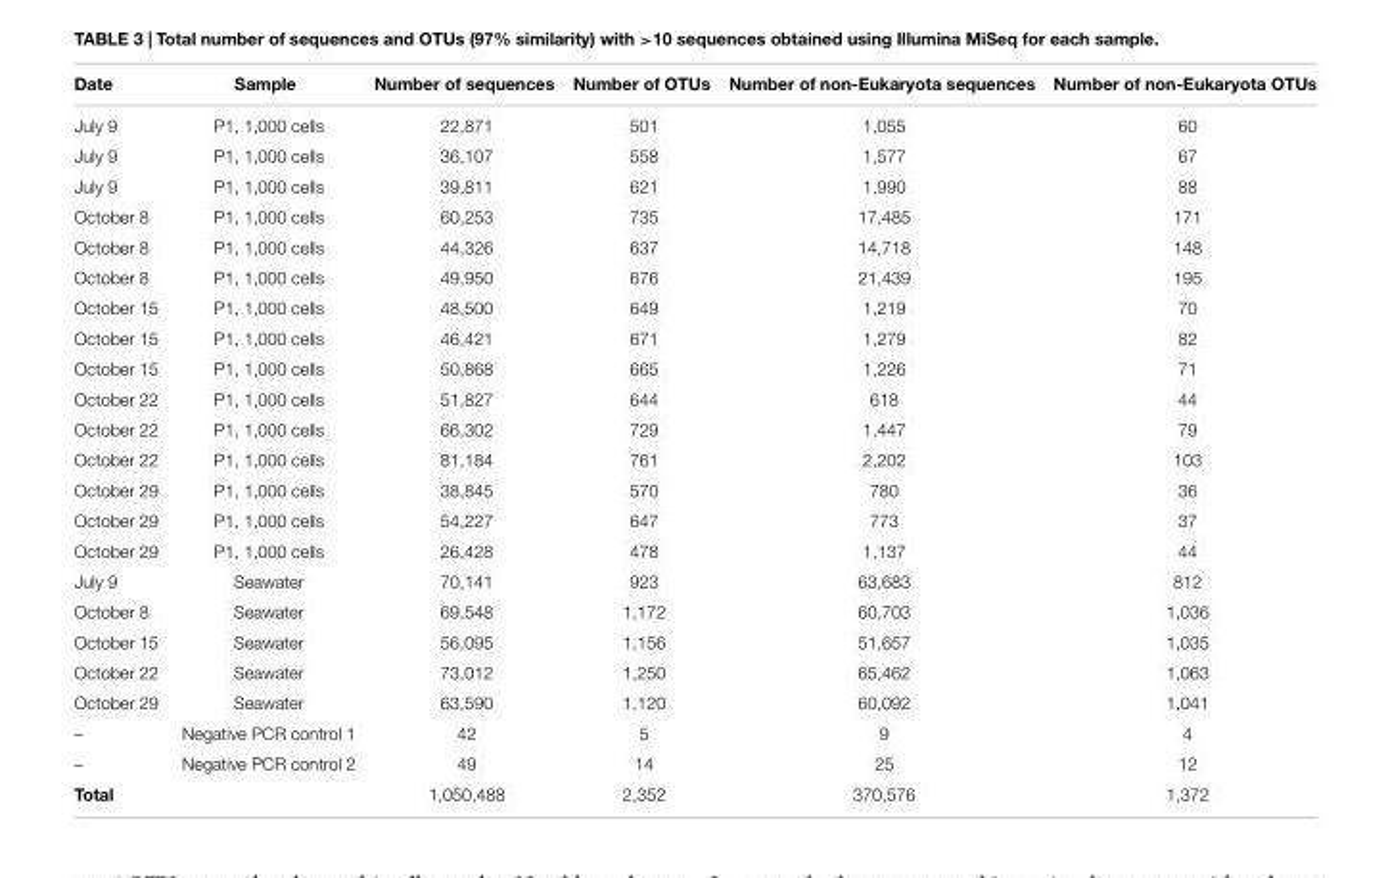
<table><thead><tr><td>Date</td><td>Sample</td><td>Number of sequences</td><td>Number of OTUs</td><td>Number of non-Eukaryota sequences</td><td>Number of non-Eukaryota OTUs</td></tr></thead><tbody><tr><td>July 9</td><td>P1, 1,000 cells</td><td>22,871</td><td>501</td><td>1,055</td><td>60</td></tr><tr><td>July 9</td><td>P1, 1,000 cells</td><td>36,107</td><td>558</td><td>1,577</td><td>67</td></tr><tr><td>July 9</td><td>P1, 1,000 cells</td><td>39,811</td><td>621</td><td>1,990</td><td>88</td></tr><tr><td>October 8</td><td>P1, 1,000 cells</td><td>60,253</td><td>735</td><td>17,485</td><td>171</td></tr><tr><td>October 8</td><td>P1, 1,000 cells</td><td>44,326</td><td>637</td><td>14,718</td><td>148</td></tr><tr><td>October 8</td><td>P1, 1,000 cells</td><td>49,950</td><td>676</td><td>21,439</td><td>195</td></tr><tr><td>October 15</td><td>P1, 1,000 cells</td><td>48,500</td><td>649</td><td>1,219</td><td>70</td></tr><tr><td>October 15</td><td>P1, 1,000 cells</td><td>46,421</td><td>671</td><td>1,279</td><td>82</td></tr><tr><td>October 15</td><td>P1, 1,000 cells</td><td>50,868</td><td>665</td><td>1,226</td><td>71</td></tr><tr><td>October 22</td><td>P1, 1,000 cells</td><td>51,827</td><td>644</td><td>618</td><td>44</td></tr><tr><td>October 22</td><td>P1, 1,000 cells</td><td>66,302</td><td>729</td><td>1,447</td><td>79</td></tr><tr><td>October 22</td><td>P1, 1,000 cells</td><td>81,184</td><td>761</td><td>2,202</td><td>103</td></tr><tr><td>October 29</td><td>P1, 1,000 cells</td><td>38,845</td><td>570</td><td>780</td><td>36</td></tr><tr><td>October 29</td><td>P1, 1,000 cells</td><td>54,227</td><td>647</td><td>773</td><td>37</td></tr><tr><td>October 29</td><td>P1, 1,000 cells</td><td>26,428</td><td>478</td><td>1,137</td><td>44</td></tr><tr><td>July 9</td><td>Seawater</td><td>70,141</td><td>923</td><td>63,683</td><td>812</td></tr><tr><td>October 8</td><td>Seawater</td><td>69,548</td><td>1,172</td><td>60,703</td><td>1,036</td></tr><tr><td>October 15</td><td>Seawater</td><td>56,095</td><td>1,156</td><td>51,657</td><td>1,035</td></tr><tr><td>October 22</td><td>Seawater</td><td>73,012</td><td>1,250</td><td>65,462</td><td>1,063</td></tr><tr><td>October 29</td><td>Seawater</td><td>63,590</td><td>1,120</td><td>60,092</td><td>1,041</td></tr><tr><td>–</td><td>Negative PCR control 1</td><td>42</td><td>5</td><td>9</td><td>4</td></tr><tr><td>–</td><td>Negative PCR control 2</td><td>49</td><td>14</td><td>25</td><td>12</td></tr><tr><td>Total</td><td></td><td>1,050,488</td><td>2,352</td><td>370,576</td><td>1,372</td></tr></tbody></table>